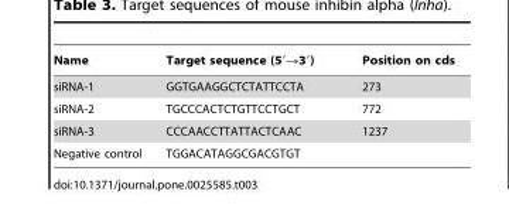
<table><thead><tr><td>Name</td><td>Target sequence (5′→3′)</td><td>Position on cds</td></tr></thead><tbody><tr><td>siRNA-1</td><td>GGTGAAGGCTCTATTCCTA</td><td>273</td></tr><tr><td>siRNA-2</td><td>TGCCCACTCTGTTCCTGCT</td><td>772</td></tr><tr><td>siRNA-3</td><td>CCCAACCTTATTACTCAAC</td><td>1237</td></tr><tr><td>Negative control</td><td>TGGACATAGGCGACGTGT</td><td></td></tr></tbody></table>